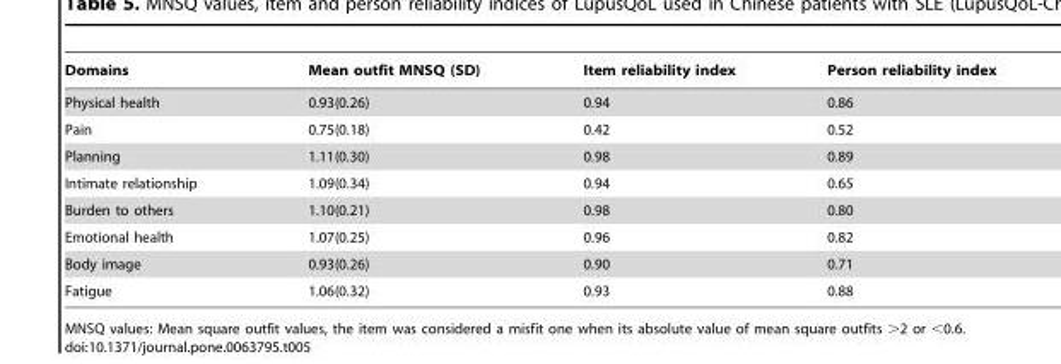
<table><thead><tr><td>Domains</td><td>Mean outfit MNSQ (SD)</td><td>Item reliability index</td><td>Person reliability index</td></tr></thead><tbody><tr><td>Physical health</td><td>0.93(0.26)</td><td>0.94</td><td>0.86</td></tr><tr><td>Pain</td><td>0.75(0.18)</td><td>0.42</td><td>0.52</td></tr><tr><td>Planning</td><td>1.11(0.30)</td><td>0.98</td><td>0.89</td></tr><tr><td>Intimate relationship</td><td>1.09(0.34)</td><td>0.94</td><td>0.65</td></tr><tr><td>Burden to others</td><td>1.10(0.21)</td><td>0.98</td><td>0.80</td></tr><tr><td>Emotional health</td><td>1.07(0.25)</td><td>0.96</td><td>0.82</td></tr><tr><td>Body image</td><td>0.93(0.26)</td><td>0.90</td><td>0.71</td></tr><tr><td>Fatigue</td><td>1.06(0.32)</td><td>0.93</td><td>0.88</td></tr></tbody></table>